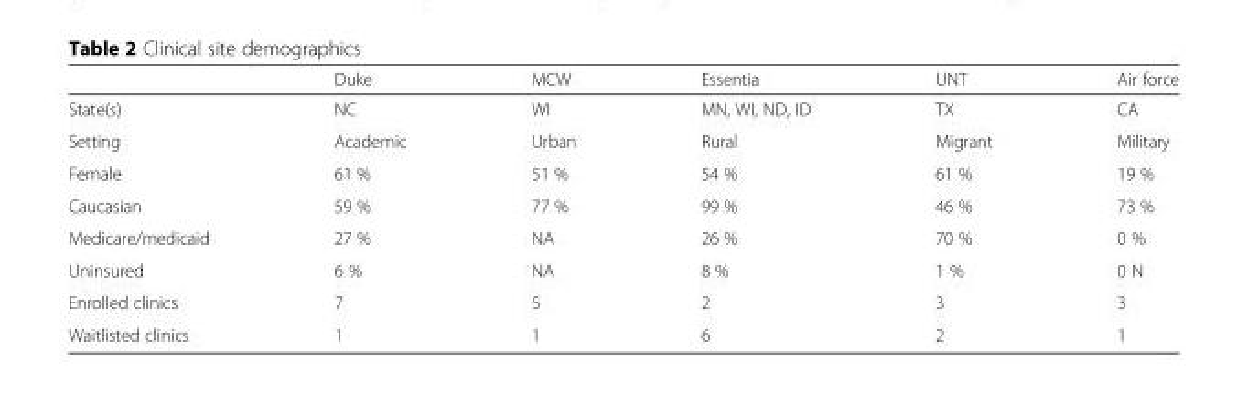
<table><thead><tr><td></td><td>Duke</td><td>MCW</td><td>Essentia</td><td>UNT</td><td>Air force</td></tr></thead><tbody><tr><td>State(s)</td><td>NC</td><td>WI</td><td>MN, WI, ND, ID</td><td>TX</td><td>CA</td></tr><tr><td>Setting</td><td>Academic</td><td>Urban</td><td>Rural</td><td>Migrant</td><td>Military</td></tr><tr><td>Female</td><td>61 %</td><td>51 %</td><td>54 %</td><td>61 %</td><td>19 %</td></tr><tr><td>Caucasian</td><td>59 %</td><td>77 %</td><td>99 %</td><td>46 %</td><td>73 %</td></tr><tr><td>Medicare/medicaid</td><td>27 %</td><td>NA</td><td>26 %</td><td>70 %</td><td>0 %</td></tr><tr><td>Uninsured</td><td>6 %</td><td>NA</td><td>8 %</td><td>1 %</td><td>0 N</td></tr><tr><td>Enrolled clinics</td><td>7</td><td>5</td><td>2</td><td>3</td><td>3</td></tr><tr><td>Waitlisted clinics</td><td>1</td><td>1</td><td>6</td><td>2</td><td>1</td></tr></tbody></table>